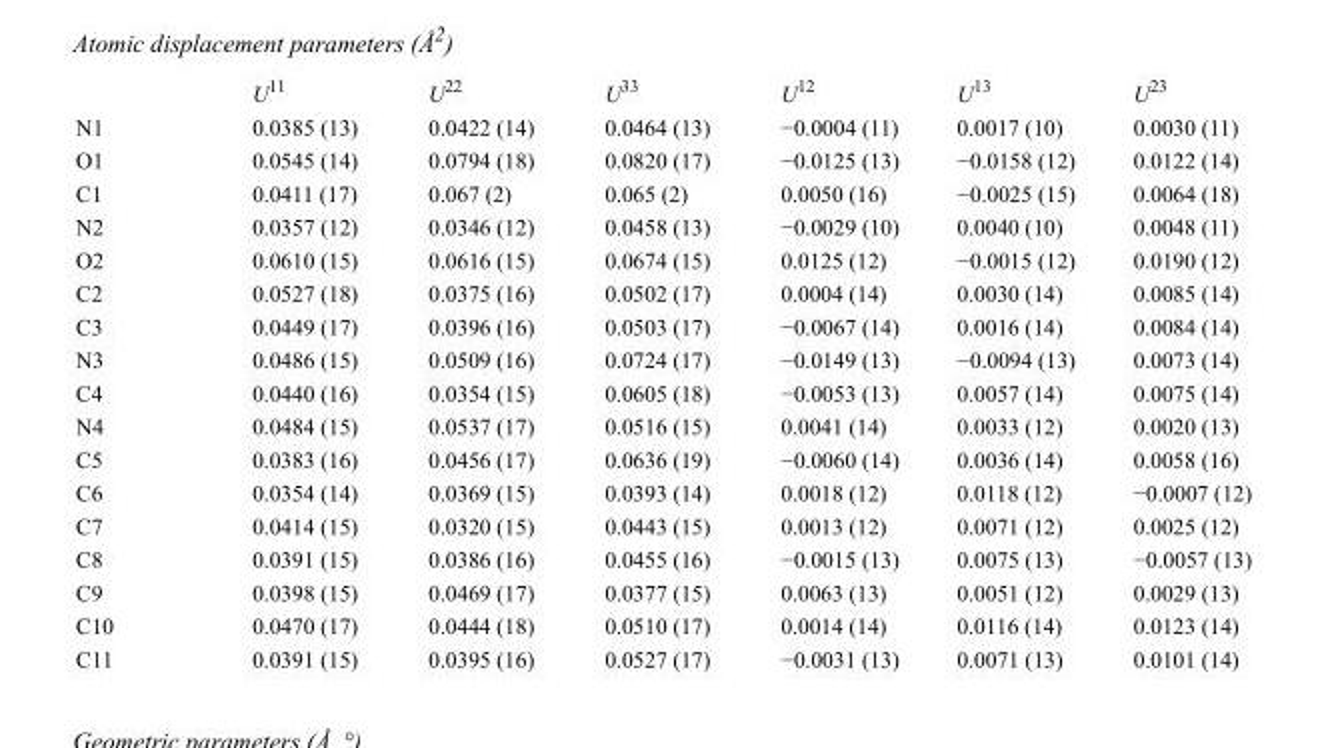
<table><thead><tr><td></td><td>U<sup>11</sup></td><td>U<sup>22</sup></td><td>U<sup>33</sup></td><td>U<sup>12</sup></td><td>U<sup>13</sup></td><td>U<sup>23</sup></td></tr></thead><tbody><tr><td>N1</td><td>0.0385 (13)</td><td>0.0422 (14)</td><td>0.0464 (13)</td><td>−0.0004 (11)</td><td>0.0017 (10)</td><td>0.0030 (11)</td></tr><tr><td>O1</td><td>0.0545 (14)</td><td>0.0794 (18)</td><td>0.0820 (17)</td><td>−0.0125 (13)</td><td>−0.0158 (12)</td><td>0.0122 (14)</td></tr><tr><td>C1</td><td>0.0411 (17)</td><td>0.067 (2)</td><td>0.065 (2)</td><td>0.0050 (16)</td><td>−0.0025 (15)</td><td>0.0064 (18)</td></tr><tr><td>N2</td><td>0.0357 (12)</td><td>0.0346 (12)</td><td>0.0458 (13)</td><td>−0.0029 (10)</td><td>0.0040 (10)</td><td>0.0048 (11)</td></tr><tr><td>O2</td><td>0.0610 (15)</td><td>0.0616 (15)</td><td>0.0674 (15)</td><td>0.0125 (12)</td><td>−0.0015 (12)</td><td>0.0190 (12)</td></tr><tr><td>C2</td><td>0.0527 (18)</td><td>0.0375 (16)</td><td>0.0502 (17)</td><td>0.0004 (14)</td><td>0.0030 (14)</td><td>0.0085 (14)</td></tr><tr><td>C3</td><td>0.0449 (17)</td><td>0.0396 (16)</td><td>0.0503 (17)</td><td>−0.0067 (14)</td><td>0.0016 (14)</td><td>0.0084 (14)</td></tr><tr><td>N3</td><td>0.0486 (15)</td><td>0.0509 (16)</td><td>0.0724 (17)</td><td>−0.0149 (13)</td><td>−0.0094 (13)</td><td>0.0073 (14)</td></tr><tr><td>C4</td><td>0.0440 (16)</td><td>0.0354 (15)</td><td>0.0605 (18)</td><td>−0.0053 (13)</td><td>0.0057 (14)</td><td>0.0075 (14)</td></tr><tr><td>N4</td><td>0.0484 (15)</td><td>0.0537 (17)</td><td>0.0516 (15)</td><td>0.0041 (14)</td><td>0.0033 (12)</td><td>0.0020 (13)</td></tr><tr><td>C5</td><td>0.0383 (16)</td><td>0.0456 (17)</td><td>0.0636 (19)</td><td>−0.0060 (14)</td><td>0.0036 (14)</td><td>0.0058 (16)</td></tr><tr><td>C6</td><td>0.0354 (14)</td><td>0.0369 (15)</td><td>0.0393 (14)</td><td>0.0018 (12)</td><td>0.0118 (12)</td><td>−0.0007 (12)</td></tr><tr><td>C7</td><td>0.0414 (15)</td><td>0.0320 (15)</td><td>0.0443 (15)</td><td>0.0013 (12)</td><td>0.0071 (12)</td><td>0.0025 (12)</td></tr><tr><td>C8</td><td>0.0391 (15)</td><td>0.0386 (16)</td><td>0.0455 (16)</td><td>−0.0015 (13)</td><td>0.0075 (13)</td><td>−0.0057 (13)</td></tr><tr><td>C9</td><td>0.0398 (15)</td><td>0.0469 (17)</td><td>0.0377 (15)</td><td>0.0063 (13)</td><td>0.0051 (12)</td><td>0.0029 (13)</td></tr><tr><td>C10</td><td>0.0470 (17)</td><td>0.0444 (18)</td><td>0.0510 (17)</td><td>0.0014 (14)</td><td>0.0116 (14)</td><td>0.0123 (14)</td></tr><tr><td>C11</td><td>0.0391 (15)</td><td>0.0395 (16)</td><td>0.0527 (17)</td><td>−0.0031 (13)</td><td>0.0071 (13)</td><td>0.0101 (14)</td></tr></tbody></table>